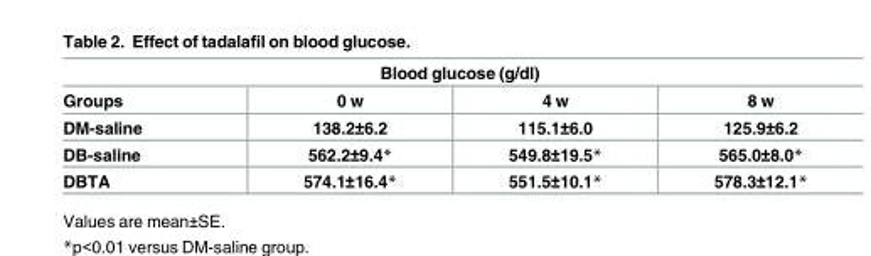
<table><thead><tr><td colspan="4">Blood glucose (g/dl)</td></tr><tr><td>Groups</td><td>0 w</td><td>4 w</td><td>8 w</td></tr></thead><tbody><tr><td>DM-saline</td><td>138.2±6.2</td><td>115.1±6.0</td><td>125.9±6.2</td></tr><tr><td>DB-saline</td><td>562.2±9.4*</td><td>549.8±19.5*</td><td>565.0±8.0*</td></tr><tr><td>DBTA</td><td>574.1±16.4*</td><td>551.5±10.1*</td><td>578.3±12.1*</td></tr></tbody></table>